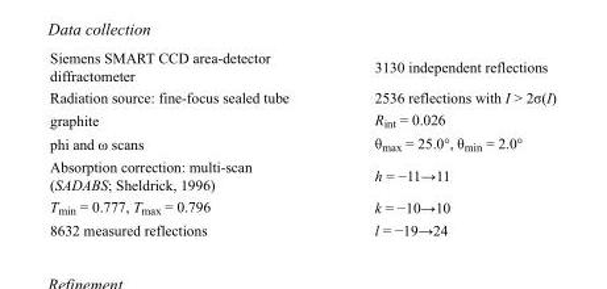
<table><tbody><tr><td>Siemens SMART CCD area-detector diffractometer</td><td>3130 independent reflections</td></tr><tr><td>Radiation source: fine-focus sealed tube</td><td>2536 reflections with I &gt; 2σ(I)</td></tr><tr><td>graphite</td><td>R<sub>int</sub> = 0.026</td></tr><tr><td>phi and ω scans</td><td>θ<sub>max</sub> = 25.0°, θ<sub>min</sub> = 2.0°</td></tr><tr><td>Absorption correction: multi-scan (SADABS; Sheldrick, 1996)</td><td>h = −11→11</td></tr><tr><td>T<sub>min</sub> = 0.777, T<sub>max</sub> = 0.796</td><td>k = −10→10</td></tr><tr><td>8632 measured reflections</td><td>l = −19→24</td></tr></tbody></table>